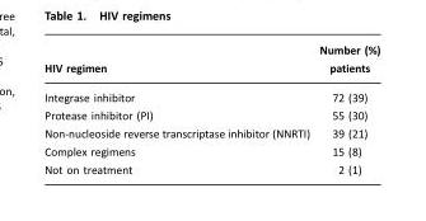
<table><thead><tr><td>HIV regimen</td><td>Number (%) patients</td></tr></thead><tbody><tr><td>Integrase inhibitor</td><td>72 (39)</td></tr><tr><td>Protease inhibitor (PI)</td><td>55 (30)</td></tr><tr><td>Non-nucleoside reverse transcriptase inhibitor (NNRTI)</td><td>39 (21)</td></tr><tr><td>Complex regimens</td><td>15 (8)</td></tr><tr><td>Not on treatment</td><td>2 (1)</td></tr></tbody></table>